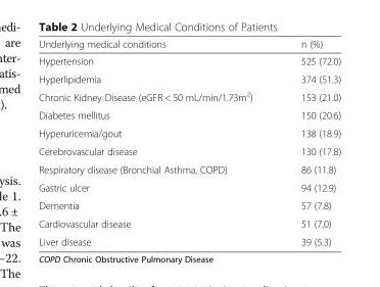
<table><thead><tr><td>Underlying medical conditions</td><td>n (%)</td></tr></thead><tbody><tr><td>Hypertension</td><td>525 (72.0)</td></tr><tr><td>Hyperlipidemia</td><td>374 (51.3)</td></tr><tr><td>Chronic Kidney Disease (eGFR &lt; 50 mL/min/1.73m<sup>2</sup>)</td><td>153 (21.0)</td></tr><tr><td>Diabetes mellitus</td><td>150 (20.6)</td></tr><tr><td>Hyperuricemia/gout</td><td>138 (18.9)</td></tr><tr><td>Cerebrovascular disease</td><td>130 (17.8)</td></tr><tr><td>Respiratory disease (Bronchial Asthma, COPD)</td><td>86 (11.8)</td></tr><tr><td>Gastric ulcer</td><td>94 (12.9)</td></tr><tr><td>Dementia</td><td>57 (7.8)</td></tr><tr><td>Cardiovascular disease</td><td>51 (7.0)</td></tr><tr><td>Liver disease</td><td>39 (5.3)</td></tr></tbody></table>